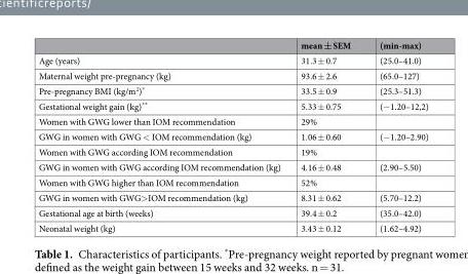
<table><thead><tr><td></td><td>mean ± SEM</td><td>(min-max)</td></tr></thead><tbody><tr><td>Age (years)</td><td>31.3 ± 0.7</td><td>(25.0–41.0)</td></tr><tr><td>Maternal weight pre-pregnancy (kg)</td><td>93.6 ± 2.6</td><td>(65.0–127)</td></tr><tr><td>Pre-pregnancy BMI (kg/m<sup>2</sup>)*</td><td>33.5 ± 0.9</td><td>(25.3–51.3)</td></tr><tr><td>Gestational weight gain (kg)**</td><td>5.33 ± 0.75</td><td>(−1.20–12,2)</td></tr><tr><td>Women with GWG lower than IOM recommendation</td><td>29%</td><td></td></tr><tr><td>GWG in women with GWG &lt; IOM recommendation (kg)</td><td>1.06 ± 0.60</td><td>(−1.20–2.90)</td></tr><tr><td>Women with GWG according IOM recommendation</td><td>19%</td><td></td></tr><tr><td>GWG in women with GWG according IOM recommendation (kg)</td><td>4.16 ± 0.48</td><td>(2.90–5.50)</td></tr><tr><td>Women with GWG higher than IOM recommendation</td><td>52%</td><td></td></tr><tr><td>GWG in women with GWG&gt;IOM recommendation (kg)</td><td>8.31 ± 0.62</td><td>(5.70–12.2)</td></tr><tr><td>Gestational age at birth (weeks)</td><td>39.4 ± 0.2</td><td>(35.0–42.0)</td></tr><tr><td>Neonatal weight (kg)</td><td>3.43 ± 0.12</td><td>(1.62–4.92)</td></tr></tbody></table>